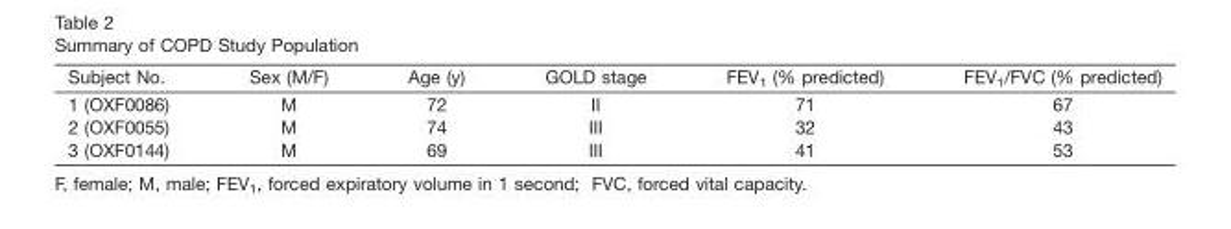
<table><thead><tr><td>Subject No.</td><td>Sex (M/F)</td><td>Age (y)</td><td>GOLD stage</td><td>FEV<sub>1</sub> (% predicted)</td><td>FEV<sub>1</sub>/FVC (% predicted)</td></tr></thead><tbody><tr><td>1 (OXF0086)</td><td>M</td><td>72</td><td>II</td><td>71</td><td>67</td></tr><tr><td>2 (OXF0055)</td><td>M</td><td>74</td><td>III</td><td>32</td><td>43</td></tr><tr><td>3 (OXF0144)</td><td>M</td><td>69</td><td>III</td><td>41</td><td>53</td></tr></tbody></table>